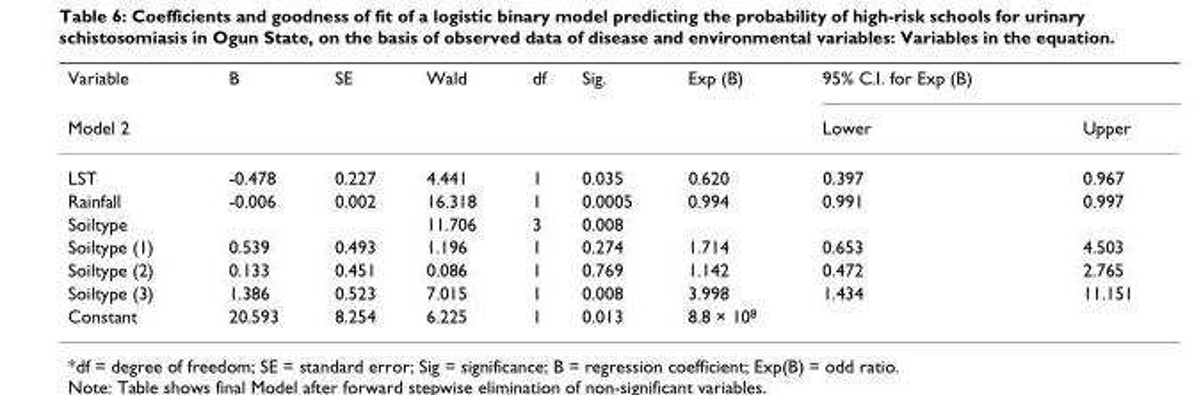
<table><thead><tr><td rowspan="2">Variable Model 2</td><td rowspan="2">B</td><td rowspan="2">SE</td><td rowspan="2">Wald</td><td rowspan="2">df</td><td rowspan="2">Sig.</td><td rowspan="2">Exp (B)</td><td rowspan="2">95% C.I. for Exp (B) Lower</td><td rowspan="2">Upper</td></tr><tr></tr></thead><tbody><tr><td>LST</td><td>-0.478</td><td>0.227</td><td>4.441</td><td>1</td><td>0.035</td><td>0.620</td><td>0.397</td><td>0.967</td></tr><tr><td>Rainfall</td><td>-0.006</td><td>0.002</td><td>16.318</td><td>1</td><td>0.0005</td><td>0.994</td><td>0.991</td><td>0.997</td></tr><tr><td>Soiltype</td><td></td><td></td><td>11.706</td><td>3</td><td>0.008</td><td></td><td></td><td></td></tr><tr><td>Soiltype (1)</td><td>0.539</td><td>0.493</td><td>1.196</td><td>1</td><td>0.274</td><td>1.714</td><td>0.653</td><td>4.503</td></tr><tr><td>Soiltype (2)</td><td>0.133</td><td>0.451</td><td>0.086</td><td>1</td><td>0.769</td><td>1.142</td><td>0.472</td><td>2.765</td></tr><tr><td>Soiltype (3)</td><td>1.386</td><td>0.523</td><td>7.015</td><td>1</td><td>0.008</td><td>3.998</td><td>1.434</td><td>11.151</td></tr><tr><td>Constant</td><td>20.593</td><td>8.254</td><td>6.225</td><td>1</td><td>0.013</td><td>8.8 × 10<sup>8</sup></td><td></td><td></td></tr></tbody></table>